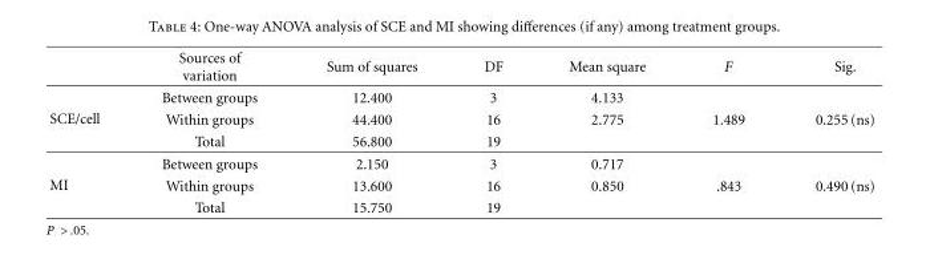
<table><thead><tr><td></td><td>Sources of variation</td><td>Sum of squares</td><td>DF</td><td>Mean square</td><td>F</td><td>Sig.</td></tr></thead><tbody><tr><td></td><td>Between groups</td><td>12.400</td><td>3</td><td>4.133</td><td></td><td></td></tr><tr><td rowspan="3">SCE/cell</td><td>Within groups</td><td>44.400</td><td>16</td><td>2.775</td><td>1.489</td><td>0.255 (ns)</td></tr><tr><td>Total</td><td>56.800</td><td>19</td><td></td><td></td><td></td></tr><tr><td>Between groups</td><td>2.150</td><td>3</td><td>0.717</td><td></td><td></td></tr><tr><td rowspan="2">MI</td><td>Within groups</td><td>13.600</td><td>16</td><td>0.850</td><td>.843</td><td>0.490 (ns)</td></tr><tr><td>Total</td><td>15.750</td><td>19</td><td></td><td></td><td></td></tr></tbody></table>